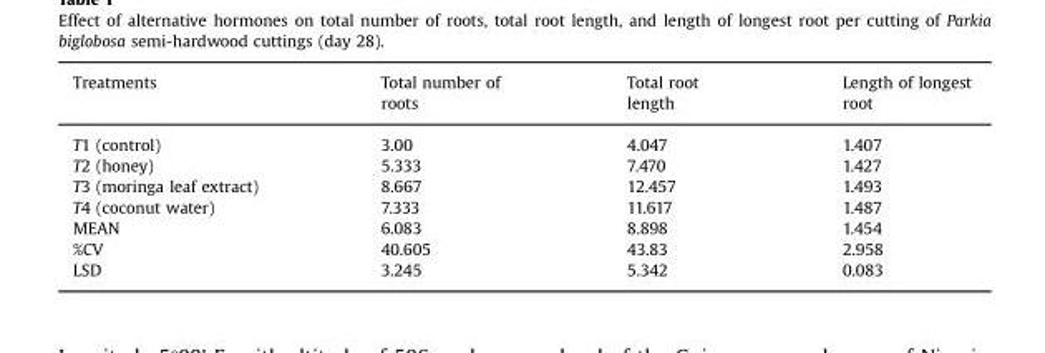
<table><thead><tr><td>Treatments</td><td>Total number of roots</td><td>Total root length</td><td>Length of longest root</td></tr></thead><tbody><tr><td>T1 (control)</td><td>3.00</td><td>4.047</td><td>1.407</td></tr><tr><td>T2 (honey)</td><td>5.333</td><td>7.470</td><td>1.427</td></tr><tr><td>T3 (moringa leaf extract)</td><td>8.667</td><td>12.457</td><td>1.493</td></tr><tr><td>T4 (coconut water)</td><td>7.333</td><td>11.617</td><td>1.487</td></tr><tr><td>MEAN</td><td>6.083</td><td>8.898</td><td>1.454</td></tr><tr><td>%CV</td><td>40.605</td><td>43.83</td><td>2.958</td></tr><tr><td>LSD</td><td>3.245</td><td>5.342</td><td>0.083</td></tr></tbody></table>